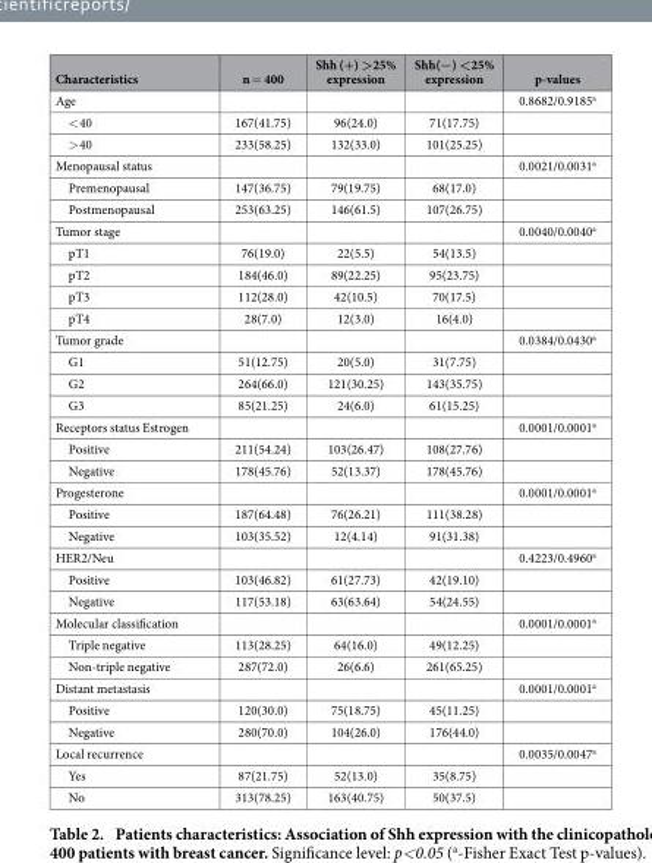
<table><thead><tr><td>Characteristics</td><td>n = 400</td><td>Shh (+) &gt;25% expression</td><td>Shh(−) &lt;25% expression</td><td>p-values</td></tr></thead><tbody><tr><td>Age</td><td></td><td></td><td></td><td>0.8682/0.9185<sup>a</sup></td></tr><tr><td>&lt; 40</td><td>167(41.75)</td><td>96(24.0)</td><td>71(17.75)</td><td></td></tr><tr><td>&gt; 40</td><td>233(58.25)</td><td>132(33.0)</td><td>101(25.25)</td><td></td></tr><tr><td>Menopausal status</td><td></td><td></td><td></td><td>0.0021/0.0031<sup>a</sup></td></tr><tr><td>Premenopausal</td><td>147(36.75)</td><td>79(19.75)</td><td>68(17.0)</td><td></td></tr><tr><td>Postmenopausal</td><td>253(63.25)</td><td>146(61.5)</td><td>107(26.75)</td><td></td></tr><tr><td>Tumor stage</td><td></td><td></td><td></td><td>0.0040/0.0040<sup>a</sup></td></tr><tr><td>pT1</td><td>76(19.0)</td><td>22(5.5)</td><td>54(13.5)</td><td></td></tr><tr><td>pT2</td><td>184(46.0)</td><td>89(22.25)</td><td>95(23.75)</td><td></td></tr><tr><td>pT3</td><td>112(28.0)</td><td>42(10.5)</td><td>70(17.5)</td><td></td></tr><tr><td>pT4</td><td>28(7.0)</td><td>12(3.0)</td><td>16(4.0)</td><td></td></tr><tr><td>Tumor grade</td><td></td><td></td><td></td><td>0.0384/0.0430<sup>a</sup></td></tr><tr><td>G1</td><td>51(12.75)</td><td>20(5.0)</td><td>31(7.75)</td><td></td></tr><tr><td>G2</td><td>264(66.0)</td><td>121(30.25)</td><td>143(35.75)</td><td></td></tr><tr><td>G3</td><td>85(21.25)</td><td>24(6.0)</td><td>61(15.25)</td><td></td></tr><tr><td>Receptors status Estrogen</td><td></td><td></td><td></td><td>0.0001/0.0001<sup>a</sup></td></tr><tr><td>Positive</td><td>211(54.24)</td><td>103(26.47)</td><td>108(27.76)</td><td></td></tr><tr><td>Negative</td><td>178(45.76)</td><td>52(13.37)</td><td>178(45.76)</td><td></td></tr><tr><td>Progesterone</td><td></td><td></td><td></td><td>0.0001/0.0001<sup>a</sup></td></tr><tr><td>Positive</td><td>187(64.48)</td><td>76(26.21)</td><td>111(38.28)</td><td></td></tr><tr><td>Negative</td><td>103(35.52)</td><td>12(4.14)</td><td>91(31.38)</td><td></td></tr><tr><td>HER2/Neu</td><td></td><td></td><td></td><td>0.4223/0.4960<sup>a</sup></td></tr><tr><td>Positive</td><td>103(46.82)</td><td>61(27.73)</td><td>42(19.10)</td><td></td></tr><tr><td>Negative</td><td>117(53.18)</td><td>63(63.64)</td><td>54(24.55)</td><td></td></tr><tr><td>Molecular classification</td><td></td><td></td><td></td><td>0.0001/0.0001<sup>a</sup></td></tr><tr><td>Triple negative</td><td>113(28.25)</td><td>64(16.0)</td><td>49(12.25)</td><td></td></tr><tr><td>Non-triple negative</td><td>287(72.0)</td><td>26(6.6)</td><td>261(65.25)</td><td></td></tr><tr><td>Distant metastasis</td><td></td><td></td><td></td><td>0.0001/0.0001<sup>a</sup></td></tr><tr><td>Positive</td><td>120(30.0)</td><td>75(18.75)</td><td>45(11.25)</td><td></td></tr><tr><td>Negative</td><td>280(70.0)</td><td>104(26.0)</td><td>176(44.0)</td><td></td></tr><tr><td>Local recurrence</td><td></td><td></td><td></td><td>0.0035/0.0047<sup>a</sup></td></tr><tr><td>Yes</td><td>87(21.75)</td><td>52(13.0)</td><td>35(8.75)</td><td></td></tr><tr><td>No</td><td>313(78.25)</td><td>163(40.75)</td><td>50(37.5)</td><td></td></tr></tbody></table>